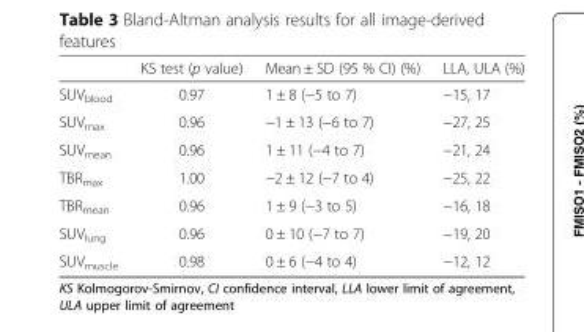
<table><thead><tr><td></td><td>KS test (p value)</td><td>Mean ± SD (95 % CI) (%)</td><td>LLA, ULA (%)</td></tr></thead><tbody><tr><td>SUV<sub>blood</sub></td><td>0.97</td><td>1 ± 8 (−5 to 7)</td><td>−15, 17</td></tr><tr><td>SUV<sub>max</sub></td><td>0.96</td><td>−1 ± 13 (−6 to 7)</td><td>−27, 25</td></tr><tr><td>SUV<sub>mean</sub></td><td>0.96</td><td>1 ± 11 (−4 to 7)</td><td>−21, 24</td></tr><tr><td>TBR<sub>max</sub></td><td>1.00</td><td>−2 ± 12 (−7 to 4)</td><td>−25, 22</td></tr><tr><td>TBR<sub>mean</sub></td><td>0.96</td><td>1 ± 9 (−3 to 5)</td><td>−16, 18</td></tr><tr><td>SUV<sub>lung</sub></td><td>0.96</td><td>0 ± 10 (−7 to 7)</td><td>−19, 20</td></tr><tr><td>SUV<sub>muscle</sub></td><td>0.98</td><td>0 ± 6 (−4 to 4)</td><td>−12, 12</td></tr></tbody></table>